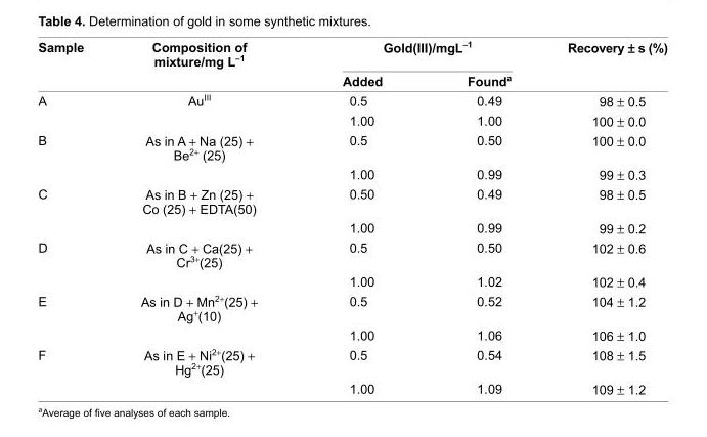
<table><thead><tr><td rowspan="2">Sample</td><td rowspan="2">Composition of mixture/mg L<sup>−1</sup></td><td colspan="2">Gold(III)/mgL<sup>−1</sup></td><td rowspan="2">Recovery ± s (%)</td></tr><tr><td>Added</td><td>Found<sup>a</sup></td></tr></thead><tbody><tr><td rowspan="2">A</td><td rowspan="2">Au<sup>III</sup></td><td>0.5</td><td>0.49</td><td>98 ± 0.5</td></tr><tr><td>1.00</td><td>1.00</td><td>100 ± 0.0</td></tr><tr><td rowspan="2">B</td><td rowspan="2">As in A + Na (25) + Be<sup>2+</sup> (25)</td><td>0.5</td><td>0.50</td><td>100 ± 0.0</td></tr><tr><td>1.00</td><td>0.99</td><td>99 ± 0.3</td></tr><tr><td rowspan="2">C</td><td rowspan="2">As in B + Zn (25) + Co (25) + EDTA(50)</td><td>0.50</td><td>0.49</td><td>98 ± 0.5</td></tr><tr><td>1.00</td><td>0.99</td><td>99 ± 0.2</td></tr><tr><td rowspan="2">D</td><td rowspan="2">As in C + Ca(25) + Cr<sup>3+</sup>(25)</td><td>0.5</td><td>0.50</td><td>102 ± 0.6</td></tr><tr><td>1.00</td><td>1.02</td><td>102 ± 0.4</td></tr><tr><td rowspan="2">E</td><td rowspan="2">As in D + Mn<sup>2+</sup>(25) + Ag<sup>+</sup>(10)</td><td>0.5</td><td>0.52</td><td>104 ± 1.2</td></tr><tr><td>1.00</td><td>1.06</td><td>106 ± 1.0</td></tr><tr><td rowspan="2">F</td><td rowspan="2">As in E + Ni<sup>2+</sup>(25) + Hg<sup>2+</sup>(25)</td><td>0.5</td><td>0.54</td><td>108 ± 1.5</td></tr><tr><td>1.00</td><td>1.09</td><td>109 ± 1.2</td></tr></tbody></table>